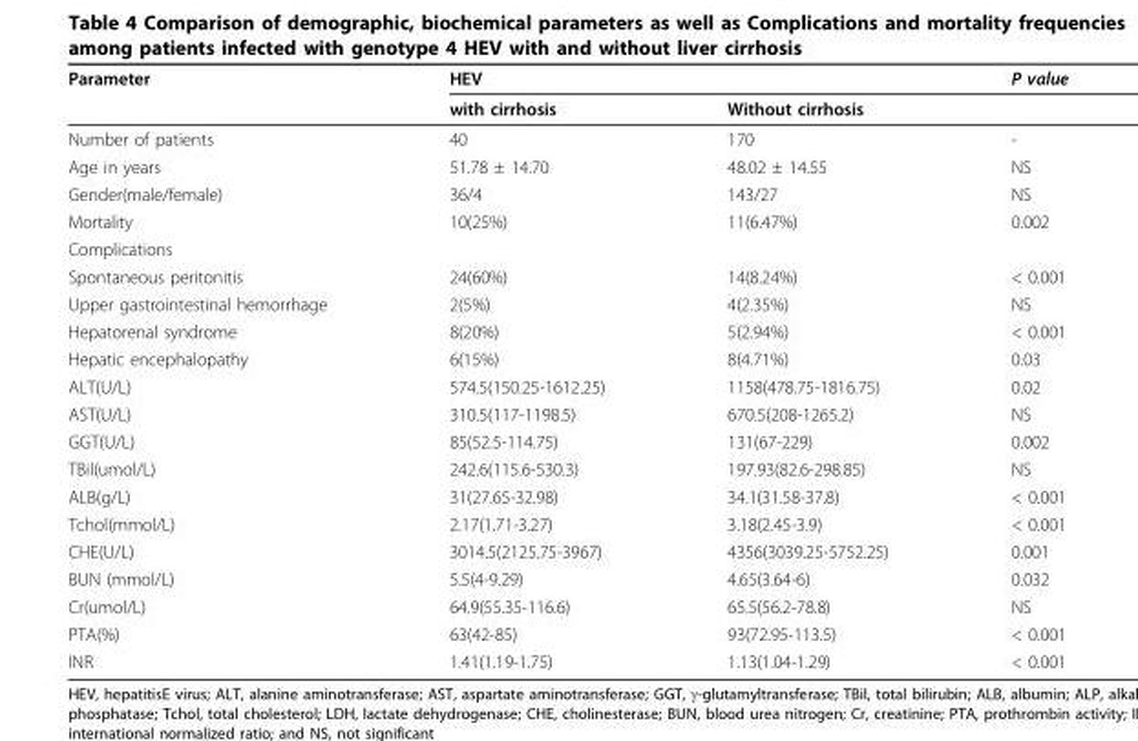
<table><thead><tr><td rowspan="2">Parameter</td><td colspan="2">HEV</td><td rowspan="2">P value</td></tr><tr><td>with cirrhosis</td><td>Without cirrhosis</td></tr></thead><tbody><tr><td>Number of patients</td><td>40</td><td>170</td><td>-</td></tr><tr><td>Age in years</td><td>51.78 ± 14.70</td><td>48.02 ± 14.55</td><td>NS</td></tr><tr><td>Gender(male/female)</td><td>36/4</td><td>143/27</td><td>NS</td></tr><tr><td>Mortality</td><td>10(25%)</td><td>11(6.47%)</td><td>0.002</td></tr><tr><td colspan="4">Complications</td></tr><tr><td>Spontaneous peritonitis</td><td>24(60%)</td><td>14(8.24%)</td><td>&lt; 0.001</td></tr><tr><td>Upper gastrointestinal hemorrhage</td><td>2(5%)</td><td>4(2.35%)</td><td>NS</td></tr><tr><td>Hepatorenal syndrome</td><td>8(20%)</td><td>5(2.94%)</td><td>&lt; 0.001</td></tr><tr><td>Hepatic encephalopathy</td><td>6(15%)</td><td>8(4.71%)</td><td>0.03</td></tr><tr><td>ALT(U/L)</td><td>574.5(150.25-1612.25)</td><td>1158(478.75-1816.75)</td><td>0.02</td></tr><tr><td>AST(U/L)</td><td>310.5(117-1198.5)</td><td>670.5(208-1265.2)</td><td>NS</td></tr><tr><td>GGT(U/L)</td><td>85(52.5-114.75)</td><td>131(67-229)</td><td>0.002</td></tr><tr><td>TBil(umol/L)</td><td>242.6(115.6-530.3)</td><td>197.93(82.6-298.85)</td><td>NS</td></tr><tr><td>ALB(g/L)</td><td>31(27.65-32.98)</td><td>34.1(31.58-37.8)</td><td>&lt; 0.001</td></tr><tr><td>Tchol(mmol/L)</td><td>2.17(1.71-3.27)</td><td>3.18(2.45-3.9)</td><td>&lt; 0.001</td></tr><tr><td>CHE(U/L)</td><td>3014.5(2125.75-3967)</td><td>4356(3039.25-5752.25)</td><td>0.001</td></tr><tr><td>BUN (mmol/L)</td><td>5.5(4-9.29)</td><td>4.65(3.64-6)</td><td>0.032</td></tr><tr><td>Cr(umol/L)</td><td>64.9(55.35-116.6)</td><td>65.5(56.2-78.8)</td><td>NS</td></tr><tr><td>PTA(%)</td><td>63(42-85)</td><td>93(72.95-113.5)</td><td>&lt; 0.001</td></tr><tr><td>INR</td><td>1.41(1.19-1.75)</td><td>1.13(1.04-1.29)</td><td>&lt; 0.001</td></tr></tbody></table>